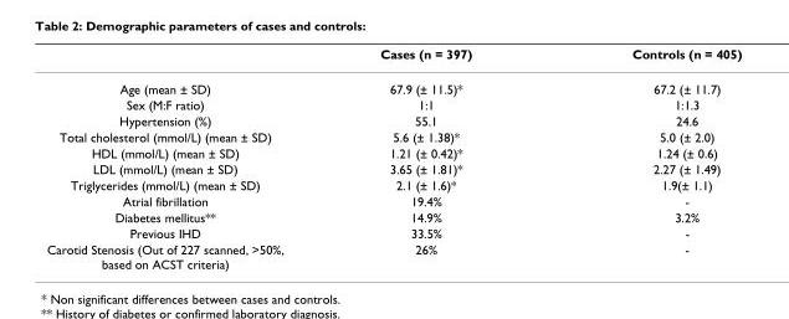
<table><thead><tr><td></td><td>Cases (n = 397)</td><td>Controls (n = 405)</td></tr></thead><tbody><tr><td>Age (mean ± SD)</td><td>67.9 (± 11.5)*</td><td>67.2 (± 11.7)</td></tr><tr><td>Sex (M:F ratio)</td><td>1:1</td><td>1:1.3</td></tr><tr><td>Hypertension (%)</td><td>55.1</td><td>24.6</td></tr><tr><td>Total cholesterol (mmol/L) (mean ± SD)</td><td>5.6 (± 1.38)*</td><td>5.0 (± 2.0)</td></tr><tr><td>HDL (mmol/L) (mean ± SD)</td><td>1.21 (± 0.42)*</td><td>1.24 (± 0.6)</td></tr><tr><td>LDL (mmol/L) (mean ± SD)</td><td>3.65 (± 1.81)*</td><td>2.27 (± 1.49)</td></tr><tr><td>Triglycerides (mmol/L) (mean ± SD)</td><td>2.1 (± 1.6)*</td><td>1.9(± 1.1)</td></tr><tr><td>Atrial fibrillation</td><td>19.4%</td><td>-</td></tr><tr><td>Diabetes mellitus**</td><td>14.9%</td><td>3.2%</td></tr><tr><td>Previous IHD</td><td>33.5%</td><td>-</td></tr><tr><td>Carotid Stenosis (Out of 227 scanned, &gt;50%, based on ACST criteria)</td><td>26%</td><td>-</td></tr></tbody></table>